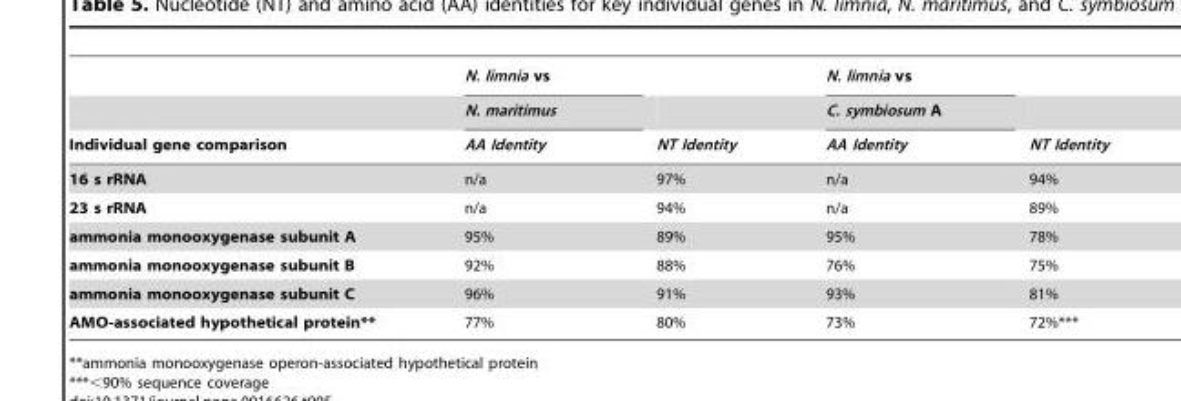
<table><thead><tr><td rowspan="3">Individual gene comparison</td><td rowspan="3">N. limnia vs N. maritimus AA Identity</td><td rowspan="3">NT Identity</td><td rowspan="3">N. limnia vs C. symbiosum A AA Identity</td><td rowspan="3">NT Identity</td></tr><tr></tr><tr></tr></thead><tbody><tr><td>16 s rRNA</td><td>n/a</td><td>97%</td><td>n/a</td><td>94%</td></tr><tr><td>23 s rRNA</td><td>n/a</td><td>94%</td><td>n/a</td><td>89%</td></tr><tr><td>ammonia monooxygenase subunit A</td><td>95%</td><td>89%</td><td>95%</td><td>78%</td></tr><tr><td>ammonia monooxygenase subunit B</td><td>92%</td><td>88%</td><td>76%</td><td>75%</td></tr><tr><td>ammonia monooxygenase subunit C</td><td>96%</td><td>91%</td><td>93%</td><td>81%</td></tr><tr><td>AMO-associated hypothetical protein**</td><td>77%</td><td>80%</td><td>73%</td><td>72%***</td></tr></tbody></table>